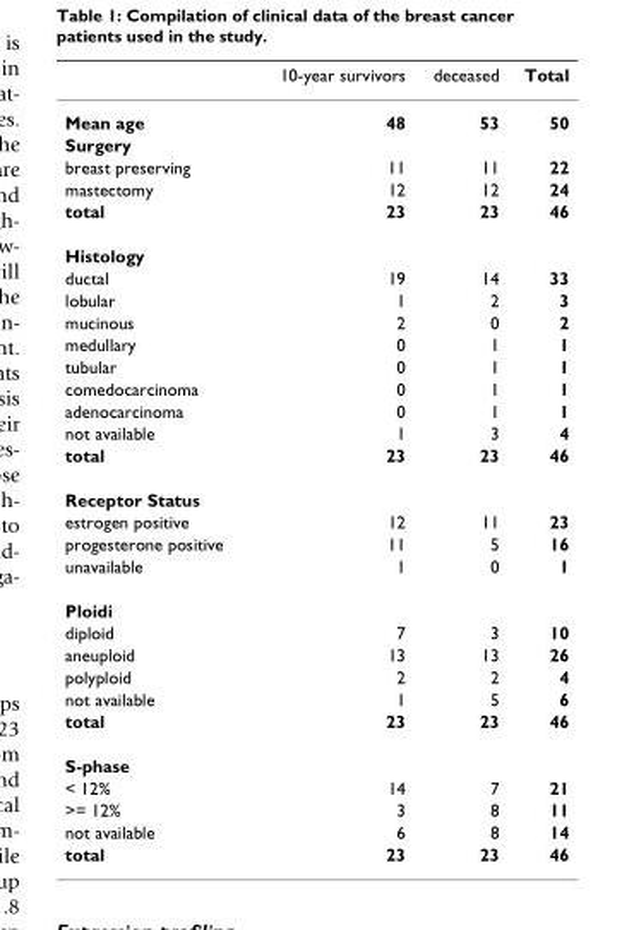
<table><thead><tr><td></td><td>10-year survivors</td><td>deceased</td><td>Total</td></tr></thead><tbody><tr><td>Mean age</td><td>48</td><td>53</td><td>50</td></tr><tr><td colspan="4">Surgery</td></tr><tr><td>breast preserving</td><td>11</td><td>11</td><td>22</td></tr><tr><td>mastectomy</td><td>12</td><td>12</td><td>24</td></tr><tr><td>total</td><td>23</td><td>23</td><td>46</td></tr><tr><td colspan="4">Histology</td></tr><tr><td>ductal</td><td>19</td><td>14</td><td>33</td></tr><tr><td>lobular</td><td>1</td><td>2</td><td>3</td></tr><tr><td>mucinous</td><td>2</td><td>0</td><td>2</td></tr><tr><td>medullary</td><td>0</td><td>1</td><td>1</td></tr><tr><td>tubular</td><td>0</td><td>1</td><td>1</td></tr><tr><td>comedocarcinoma</td><td>0</td><td>1</td><td>1</td></tr><tr><td>adenocarcinoma</td><td>0</td><td>1</td><td>1</td></tr><tr><td>not available</td><td>1</td><td>3</td><td>4</td></tr><tr><td>total</td><td>23</td><td>23</td><td>46</td></tr><tr><td colspan="4">Receptor Status</td></tr><tr><td>estrogen positive</td><td>12</td><td>11</td><td>23</td></tr><tr><td>progesterone positive</td><td>11</td><td>5</td><td>16</td></tr><tr><td>unavailable</td><td>1</td><td>0</td><td>1</td></tr><tr><td colspan="4">Ploidi</td></tr><tr><td>diploid</td><td>7</td><td>3</td><td>10</td></tr><tr><td>aneuploid</td><td>13</td><td>13</td><td>26</td></tr><tr><td>polyploid</td><td>2</td><td>2</td><td>4</td></tr><tr><td>not available</td><td>1</td><td>5</td><td>6</td></tr><tr><td>total</td><td>23</td><td>23</td><td>46</td></tr><tr><td colspan="4">S-phase</td></tr><tr><td>&lt; 12%</td><td>14</td><td>7</td><td>21</td></tr><tr><td>&gt;= 12%</td><td>3</td><td>8</td><td>11</td></tr><tr><td>not available</td><td>6</td><td>8</td><td>14</td></tr><tr><td>total</td><td>23</td><td>23</td><td>46</td></tr></tbody></table>